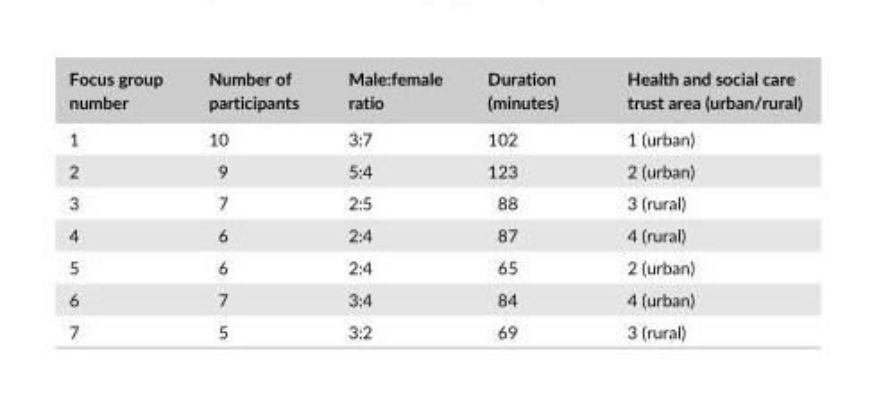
<table><thead><tr><td>Focus group number</td><td>Number of participants</td><td>Male:female ratio</td><td>Duration (minutes)</td><td>Health and social care trust area (urban/rural)</td></tr></thead><tbody><tr><td>1</td><td>10</td><td>3:7</td><td>102</td><td>1 (urban)</td></tr><tr><td>2</td><td>9</td><td>5:4</td><td>123</td><td>2 (urban)</td></tr><tr><td>3</td><td>7</td><td>2:5</td><td>88</td><td>3 (rural)</td></tr><tr><td>4</td><td>6</td><td>2:4</td><td>87</td><td>4 (rural)</td></tr><tr><td>5</td><td>6</td><td>2:4</td><td>65</td><td>2 (urban)</td></tr><tr><td>6</td><td>7</td><td>3:4</td><td>84</td><td>4 (urban)</td></tr><tr><td>7</td><td>5</td><td>3:2</td><td>69</td><td>3 (rural)</td></tr></tbody></table>